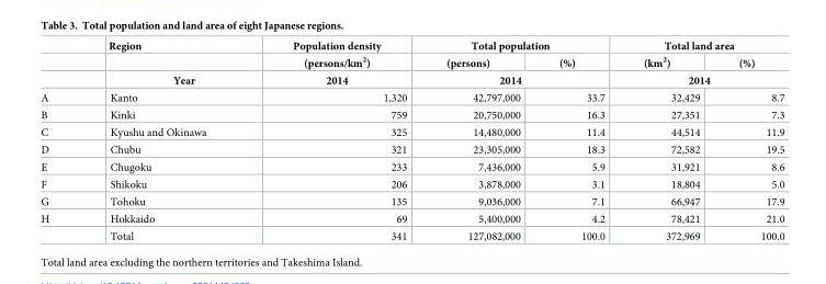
<table><thead><tr><td rowspan="3"></td><td rowspan="3">Region Year</td><td rowspan="3">Population density (persons/km<sup>2</sup>) 2014</td><td colspan="2">Total population</td><td colspan="2">Total land area</td></tr><tr><td>(persons)</td><td>(%)</td><td>(km<sup>2</sup>)</td><td>(%)</td></tr><tr><td colspan="2">2014</td><td colspan="2">2014</td></tr></thead><tbody><tr><td>A</td><td>Kanto</td><td>1,320</td><td>42,797,000</td><td>33.7</td><td>32,429</td><td>8.7</td></tr><tr><td>B</td><td>Kinki</td><td>759</td><td>20,750,000</td><td>16.3</td><td>27,351</td><td>7.3</td></tr><tr><td>C</td><td>Kyushu and Okinawa</td><td>325</td><td>14,480,000</td><td>11.4</td><td>44,514</td><td>11.9</td></tr><tr><td>D</td><td>Chubu</td><td>321</td><td>23,305,000</td><td>18.3</td><td>72,582</td><td>19.5</td></tr><tr><td>E</td><td>Chugoku</td><td>233</td><td>7,436,000</td><td>5.9</td><td>31,921</td><td>8.6</td></tr><tr><td>F</td><td>Shikoku</td><td>206</td><td>3,878,000</td><td>3.1</td><td>18,804</td><td>5.0</td></tr><tr><td>G</td><td>Tohoku</td><td>135</td><td>9,036,000</td><td>7.1</td><td>66,947</td><td>17.9</td></tr><tr><td rowspan="2">H</td><td>Hokkaido</td><td>69</td><td>5,400,000</td><td>4.2</td><td>78,421</td><td>21.0</td></tr><tr><td>Total</td><td>341</td><td>127,082,000</td><td>100.0</td><td>372,969</td><td>100.0</td></tr></tbody></table>